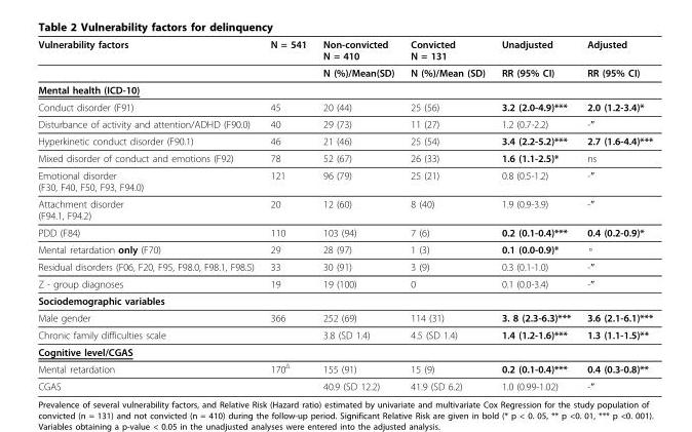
<table><thead><tr><td>Vulnerability factors</td><td>N = 541</td><td>Non-convicted N = 410</td><td>Convicted N = 131</td><td>Unadjusted</td><td>Adjusted</td></tr></thead><tbody><tr><td></td><td></td><td>N (%)/Mean(SD)</td><td>N (%)/Mean (SD)</td><td>RR (95% CI)</td><td>RR (95% CI)</td></tr><tr><td colspan="6">Mental health (ICD-10)</td></tr><tr><td>Conduct disorder (F91)</td><td>45</td><td>20 (44)</td><td>25 (56)</td><td>3.2 (2.0-4.9)***</td><td>2.0 (1.2-3.4)*</td></tr><tr><td>Disturbance of activity and attention/ADHD (F90.0)</td><td>40</td><td>29 (73)</td><td>11 (27)</td><td>1.2 (0.7-2.2)</td><td>-″</td></tr><tr><td>Hyperkinetic conduct disorder (F90.1)</td><td>46</td><td>21 (46)</td><td>25 (54)</td><td>3.4 (2.2-5.2)***</td><td>2.7 (1.6-4.4)***</td></tr><tr><td>Mixed disorder of conduct and emotions (F92)</td><td>78</td><td>52 (67)</td><td>26 (33)</td><td>1.6 (1.1-2.5)*</td><td>ns</td></tr><tr><td>Emotional disorder (F30, F40, F50, F93, F94.0)</td><td>121</td><td>96 (79)</td><td>25 (21)</td><td>0.8 (0.5-1.2)</td><td>-″</td></tr><tr><td>Attachment disorder (F94.1, F94.2)</td><td>20</td><td>12 (60)</td><td>8 (40)</td><td>1.9 (0.9-3.9)</td><td>-″</td></tr><tr><td>PDD (F84)</td><td>110</td><td>103 (94)</td><td>7 (6)</td><td>0.2 (0.1-0.4)***</td><td>0.4 (0.2-0.9)*</td></tr><tr><td>Mental retardation only (F70)</td><td>29</td><td>28 (97)</td><td>1 (3)</td><td>0.1 (0.0-0.9)*</td><td>▫</td></tr><tr><td>Residual disorders (F06, F20, F95, F98.0, F98.1, F98.5)</td><td>33</td><td>30 (91)</td><td>3 (9)</td><td>0.3 (0.1-1.0)</td><td>-″</td></tr><tr><td>Z - group diagnoses</td><td>19</td><td>19 (100)</td><td>0</td><td>0.1 (0.0-3.4)</td><td>-″</td></tr><tr><td colspan="6">Sociodemographic variables</td></tr><tr><td>Male gender</td><td>366</td><td>252 (69)</td><td>114 (31)</td><td>3. 8 (2.3-6.3)***</td><td>3.6 (2.1-6.1)***</td></tr><tr><td>Chronic family difficulties scale</td><td></td><td>3.8 (SD 1.4)</td><td>4.5 (SD 1.4)</td><td>1.4 (1.2-1.6)***</td><td>1.3 (1.1-1.5)**</td></tr><tr><td colspan="6">Cognitive level/CGAS</td></tr><tr><td>Mental retardation</td><td>170<sup>Δ</sup></td><td>155 (91)</td><td>15 (9)</td><td>0.2 (0.1-0.4)***</td><td>0.4 (0.3-0.8)**</td></tr><tr><td>CGAS</td><td></td><td>40.9 (SD 12.2)</td><td>41.9 (SD 6.2)</td><td>1.0 (0.99-1.02)</td><td>-″</td></tr></tbody></table>